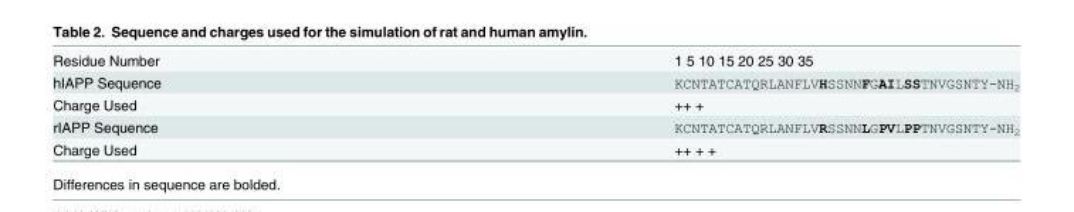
<table><tbody><tr><td>Residue Number</td><td>1 5 10 15 20 25 30 35</td></tr><tr><td>hIAPP Sequence</td><td>KCNTATCATQRLANFLVHSSNNFGAILSSTNVGSNTY-NH<sub>2</sub></td></tr><tr><td>Charge Used</td><td>++ +</td></tr><tr><td>rIAPP Sequence</td><td>KCNTATCATQRLANFLVRSSNNLGPVLPPTNVGSNTY-NH<sub>2</sub></td></tr><tr><td>Charge Used</td><td>++ + +</td></tr></tbody></table>